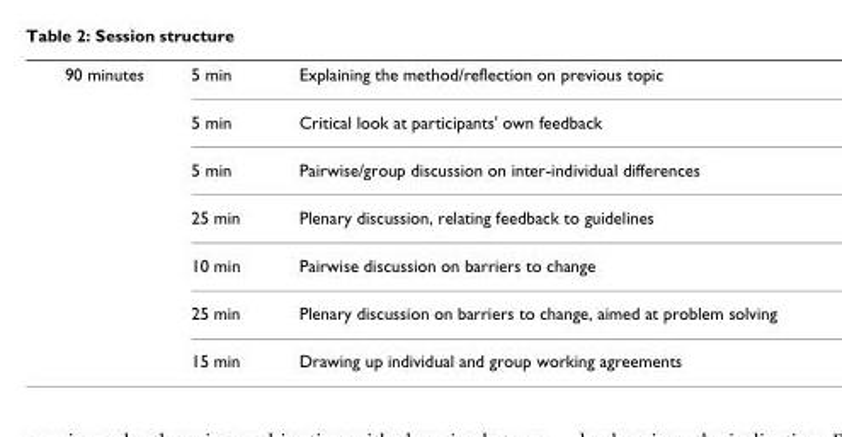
<table><tbody><tr><td rowspan="7">90 minutes</td><td>5 min</td><td>Explaining the method/reflection on previous topic</td></tr><tr><td>5 min</td><td>Critical look at participants&#x27; own feedback</td></tr><tr><td>5 min</td><td>Pairwise/group discussion on inter-individual differences</td></tr><tr><td>25 min</td><td>Plenary discussion, relating feedback to guidelines</td></tr><tr><td>10 min</td><td>Pairwise discussion on barriers to change</td></tr><tr><td>25 min</td><td>Plenary discussion on barriers to change, aimed at problem solving</td></tr><tr><td>15 min</td><td>Drawing up individual and group working agreements</td></tr></tbody></table>